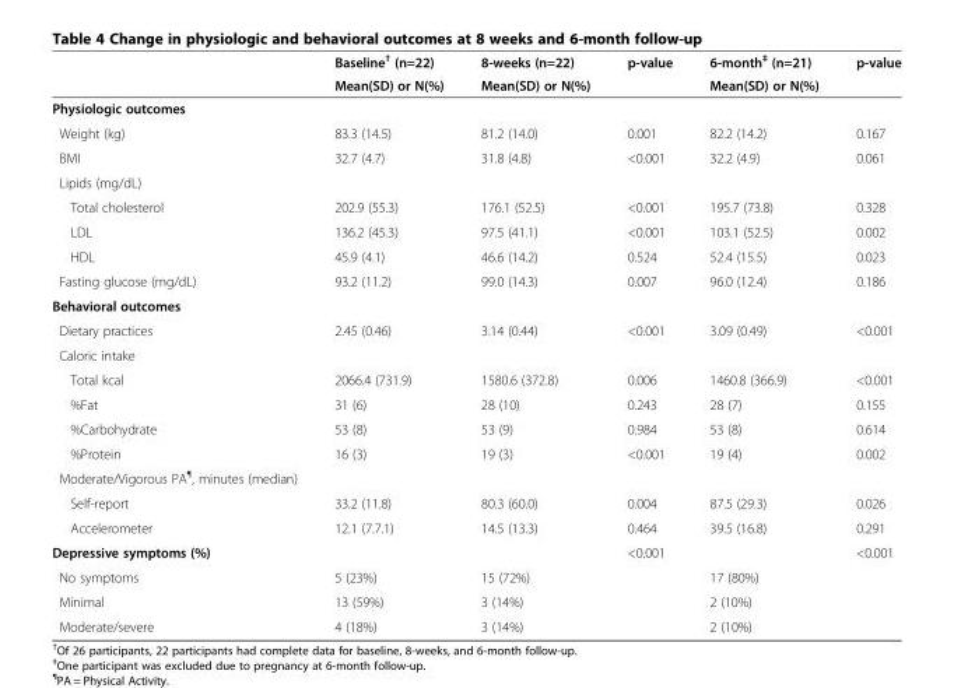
<table><thead><tr><td rowspan="2"></td><td rowspan="2">Baseline<sup>†</sup> (n=22) Mean(SD) or N(%)</td><td rowspan="2">8-weeks (n=22) Mean(SD) or N(%)</td><td rowspan="2">p-value</td><td rowspan="2">6-month<sup>‡</sup> (n=21) Mean(SD) or N(%)</td><td rowspan="2">p-value</td></tr><tr></tr></thead><tbody><tr><td colspan="6">Physiologic outcomes</td></tr><tr><td>Weight (kg)</td><td>83.3 (14.5)</td><td>81.2 (14.0)</td><td>0.001</td><td>82.2 (14.2)</td><td>0.167</td></tr><tr><td>BMI</td><td>32.7 (4.7)</td><td>31.8 (4.8)</td><td>&lt;0.001</td><td>32.2 (4.9)</td><td>0.061</td></tr><tr><td colspan="6">Lipids (mg/dL)</td></tr><tr><td>Total cholesterol</td><td>202.9 (55.3)</td><td>176.1 (52.5)</td><td>&lt;0.001</td><td>195.7 (73.8)</td><td>0.328</td></tr><tr><td>LDL</td><td>136.2 (45.3)</td><td>97.5 (41.1)</td><td>&lt;0.001</td><td>103.1 (52.5)</td><td>0.002</td></tr><tr><td>HDL</td><td>45.9 (4.1)</td><td>46.6 (14.2)</td><td>0.524</td><td>52.4 (15.5)</td><td>0.023</td></tr><tr><td>Fasting glucose (mg/dL)</td><td>93.2 (11.2)</td><td>99.0 (14.3)</td><td>0.007</td><td>96.0 (12.4)</td><td>0.186</td></tr><tr><td colspan="6">Behavioral outcomes</td></tr><tr><td>Dietary practices</td><td>2.45 (0.46)</td><td>3.14 (0.44)</td><td>&lt;0.001</td><td>3.09 (0.49)</td><td>&lt;0.001</td></tr><tr><td colspan="6">Caloric intake</td></tr><tr><td>Total kcal</td><td>2066.4 (731.9)</td><td>1580.6 (372.8)</td><td>0.006</td><td>1460.8 (366.9)</td><td>&lt;0.001</td></tr><tr><td>%Fat</td><td>31 (6)</td><td>28 (10)</td><td>0.243</td><td>28 (7)</td><td>0.155</td></tr><tr><td>%Carbohydrate</td><td>53 (8)</td><td>53 (9)</td><td>0.984</td><td>53 (8)</td><td>0.614</td></tr><tr><td>%Protein</td><td>16 (3)</td><td>19 (3)</td><td>&lt;0.001</td><td>19 (4)</td><td>0.002</td></tr><tr><td colspan="6">Moderate/Vigorous PA<sup>¶</sup>, minutes (median)</td></tr><tr><td>Self-report</td><td>33.2 (11.8)</td><td>80.3 (60.0)</td><td>0.004</td><td>87.5 (29.3)</td><td>0.026</td></tr><tr><td>Accelerometer</td><td>12.1 (7.7.1)</td><td>14.5 (13.3)</td><td>0.464</td><td>39.5 (16.8)</td><td>0.291</td></tr><tr><td>Depressive symptoms (%)</td><td></td><td></td><td>&lt;0.001</td><td></td><td>&lt;0.001</td></tr><tr><td>No symptoms</td><td>5 (23%)</td><td>15 (72%)</td><td></td><td>17 (80%)</td><td></td></tr><tr><td>Minimal</td><td>13 (59%)</td><td>3 (14%)</td><td></td><td>2 (10%)</td><td></td></tr><tr><td>Moderate/severe</td><td>4 (18%)</td><td>3 (14%)</td><td></td><td>2 (10%)</td><td></td></tr></tbody></table>